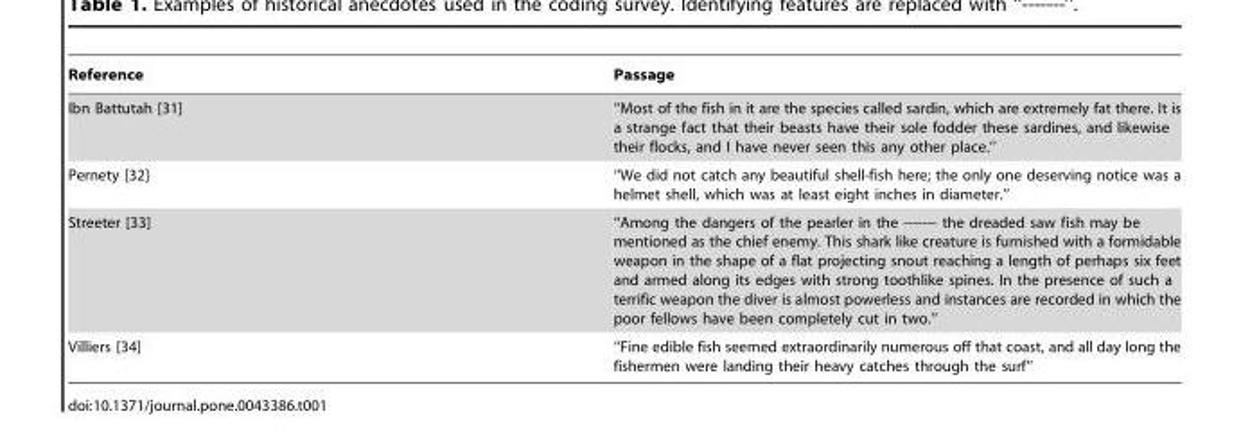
<table><thead><tr><td>Reference</td><td>Passage</td></tr></thead><tbody><tr><td>Ibn Battutah [31]</td><td>‘‘Most of the fish in it are the species called sardin, which are extremely fat there. It is a strange fact that their beasts have their sole fodder these sardines, and likewise their flocks, and I have never seen this any other place.’’</td></tr><tr><td>Pernety [32]</td><td>‘‘We did not catch any beautiful shell-fish here; the only one deserving notice was a helmet shell, which was at least eight inches in diameter.’’</td></tr><tr><td>Streeter [33]</td><td>‘‘Among the dangers of the pearler in the ------- the dreaded saw fish may be mentioned as the chief enemy. This shark like creature is furnished with a formidable weapon in the shape of a flat projecting snout reaching a length of perhaps six feet and armed along its edges with strong toothlike spines. In the presence of such a terrific weapon the diver is almost powerless and instances are recorded in which the poor fellows have been completely cut in two.’’</td></tr><tr><td>Villiers [34]</td><td>‘‘Fine edible fish seemed extraordinarily numerous off that coast, and all day long the fishermen were landing their heavy catches through the surf’’</td></tr></tbody></table>